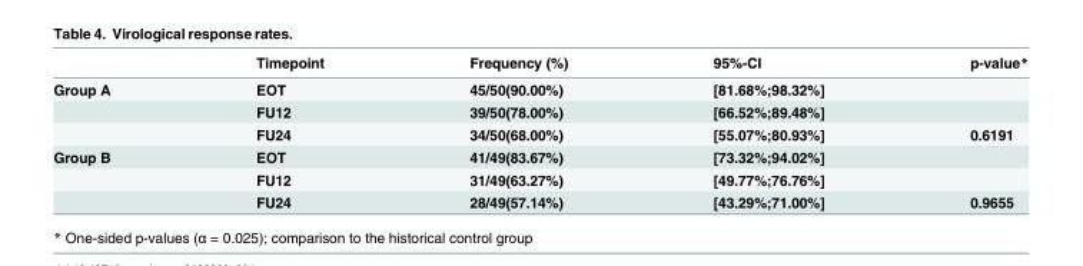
<table><thead><tr><td></td><td>Timepoint</td><td>Frequency (%)</td><td>95%-CI</td><td>p-value*</td></tr></thead><tbody><tr><td rowspan="3">Group A</td><td>EOT</td><td>45/50(90.00%)</td><td>[81.68%;98.32%]</td><td></td></tr><tr><td>FU12</td><td>39/50(78.00%)</td><td>[66.52%;89.48%]</td><td></td></tr><tr><td>FU24</td><td>34/50(68.00%)</td><td>[55.07%;80.93%]</td><td>0.6191</td></tr><tr><td rowspan="3">Group B</td><td>EOT</td><td>41/49(83.67%)</td><td>[73.32%;94.02%]</td><td></td></tr><tr><td>FU12</td><td>31/49(63.27%)</td><td>[49.77%;76.76%]</td><td></td></tr><tr><td>FU24</td><td>28/49(57.14%)</td><td>[43.29%;71.00%]</td><td>0.9655</td></tr></tbody></table>